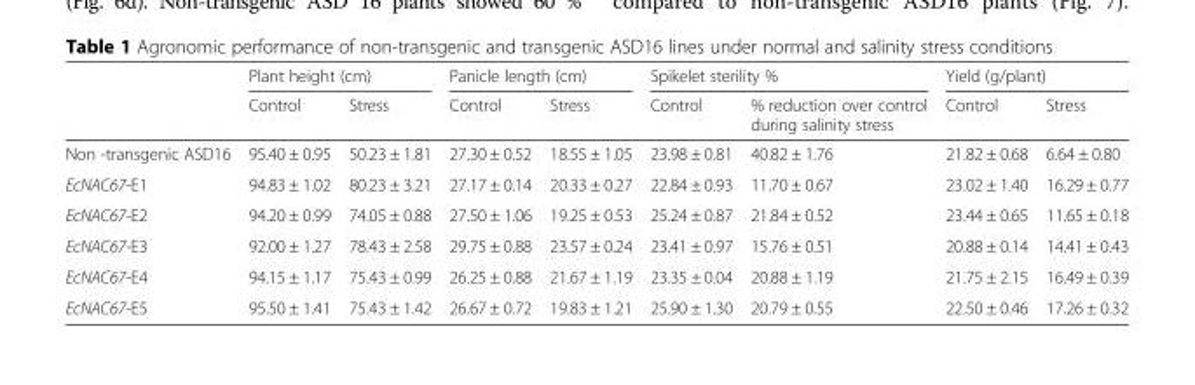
<table><thead><tr><td rowspan="2"></td><td colspan="2">Plant height (cm)</td><td colspan="2">Panicle length (cm)</td><td colspan="2">Spikelet sterility %</td><td colspan="2">Yield (g/plant)</td></tr><tr><td>Control</td><td>Stress</td><td>Control</td><td>Stress</td><td>Control</td><td>% reduction over control during salinity stress</td><td>Control</td><td>Stress</td></tr></thead><tbody><tr><td>Non -transgenic ASD16</td><td>95.40 ± 0.95</td><td>50.23 ± 1.81</td><td>27.30 ± 0.52</td><td>18.55 ± 1.05</td><td>23.98 ± 0.81</td><td>40.82 ± 1.76</td><td>21.82 ± 0.68</td><td>6.64 ± 0.80</td></tr><tr><td>EcNAC67-E1</td><td>94.83 ± 1.02</td><td>80.23 ± 3.21</td><td>27.17 ± 0.14</td><td>20.33 ± 0.27</td><td>22.84 ± 0.93</td><td>11.70 ± 0.67</td><td>23.02 ± 1.40</td><td>16.29 ± 0.77</td></tr><tr><td>EcNAC67-E2</td><td>94.20 ± 0.99</td><td>74.05 ± 0.88</td><td>27.50 ± 1.06</td><td>19.25 ± 0.53</td><td>25.24 ± 0.87</td><td>21.84 ± 0.52</td><td>23.44 ± 0.65</td><td>11.65 ± 0.18</td></tr><tr><td>EcNAC67-E3</td><td>92.00 ± 1.27</td><td>78.43 ± 2.58</td><td>29.75 ± 0.88</td><td>23.57 ± 0.24</td><td>23.41 ± 0.97</td><td>15.76 ± 0.51</td><td>20.88 ± 0.14</td><td>14.41 ± 0.43</td></tr><tr><td>EcNAC67-E4</td><td>94.15 ± 1.17</td><td>75.43 ± 0.99</td><td>26.25 ± 0.88</td><td>21.67 ± 1.19</td><td>23.35 ± 0.04</td><td>20.88 ± 1.19</td><td>21.75 ± 2.15</td><td>16.49 ± 0.39</td></tr><tr><td>EcNAC67-E5</td><td>95.50 ± 1.41</td><td>75.43 ± 1.42</td><td>26.67 ± 0.72</td><td>19.83 ± 1.21</td><td>25.90 ± 1.30</td><td>20.79 ± 0.55</td><td>22.50 ± 0.46</td><td>17.26 ± 0.32</td></tr></tbody></table>